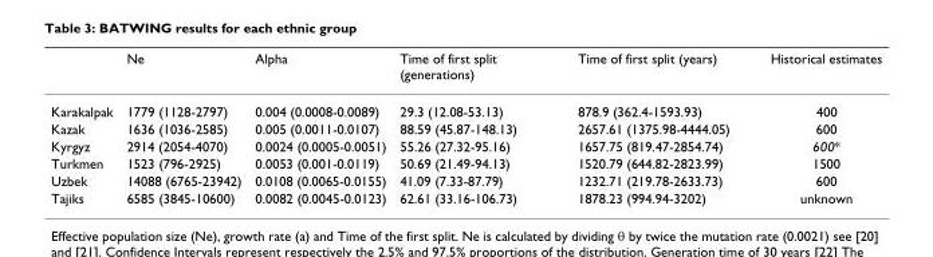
<table><thead><tr><td></td><td>Ne</td><td>Alpha</td><td>Time of first split (generations)</td><td>Time of first split (years)</td><td>Historical estimates</td></tr></thead><tbody><tr><td>Karakalpak</td><td>1779 (1128-2797)</td><td>0.004 (0.0008-0.0089)</td><td>29.3 (12.08-53.13)</td><td>878.9 (362.4-1593.93)</td><td>400</td></tr><tr><td>Kazak</td><td>1636 (1036-2585)</td><td>0.005 (0.0011-0.0107)</td><td>88.59 (45.87-148.13)</td><td>2657.61 (1375.98-4444.05)</td><td>600</td></tr><tr><td>Kyrgyz</td><td>2914 (2054-4070)</td><td>0.0024 (0.0005-0.0051)</td><td>55.26 (27.32-95.16)</td><td>1657.75 (819.47-2854.74)</td><td>600*</td></tr><tr><td>Turkmen</td><td>1523 (796-2925)</td><td>0.0053 (0.001-0.0119)</td><td>50.69 (21.49-94.13)</td><td>1520.79 (644.82-2823.99)</td><td>1500</td></tr><tr><td>Uzbek</td><td>14088 (6765-23942)</td><td>0.0108 (0.0065-0.0155)</td><td>41.09 (7.33-87.79)</td><td>1232.71 (219.78-2633.73)</td><td>600</td></tr><tr><td>Tajiks</td><td>6585 (3845-10600)</td><td>0.0082 (0.0045-0.0123)</td><td>62.61 (33.16-106.73)</td><td>1878.23 (994.94-3202)</td><td>unknown</td></tr></tbody></table>